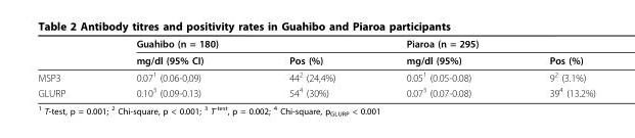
<table><thead><tr><td rowspan="2"></td><td rowspan="2">Guahibo (n = 180) mg/dl (95% CI)</td><td rowspan="2">Pos (%)</td><td rowspan="2">Piaroa (n = 295) mg/dl (95%)</td><td rowspan="2">Pos (%)</td></tr><tr></tr></thead><tbody><tr><td>MSP3</td><td>0.07<sup>1</sup> (0.06-0,09)</td><td>44<sup>2</sup> (24,4%)</td><td>0.05<sup>1</sup> (0.05-0.08)</td><td>9<sup>2</sup> (3.1%)</td></tr><tr><td>GLURP</td><td>0.10<sup>3</sup> (0.09-0.13)</td><td>54<sup>4</sup> (30%)</td><td>0.07<sup>3</sup> (0.07-0.08)</td><td>39<sup>4</sup> (13.2%)</td></tr></tbody></table>